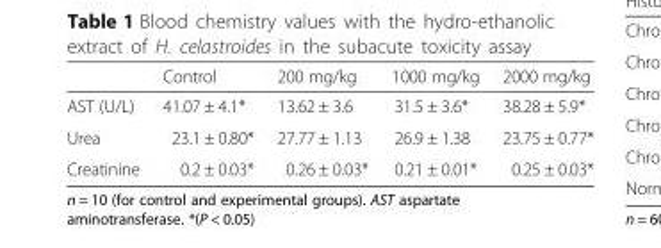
<table><thead><tr><td></td><td>Control</td><td>200 mg/kg</td><td>1000 mg/kg</td><td>2000 mg/kg</td></tr></thead><tbody><tr><td>AST (U/L)</td><td>41.07 ± 4.1*</td><td>13.62 ± 3.6</td><td>31.5 ± 3.6*</td><td>38.28 ± 5.9*</td></tr><tr><td>Urea</td><td>23.1 ± 0.80*</td><td>27.77 ± 1.13</td><td>26.9 ± 1.38</td><td>23.75 ± 0.77*</td></tr><tr><td>Creatinine</td><td>0.2 ± 0.03*</td><td>0.26 ± 0.03*</td><td>0.21 ± 0.01*</td><td>0.25 ± 0.03*</td></tr></tbody></table>